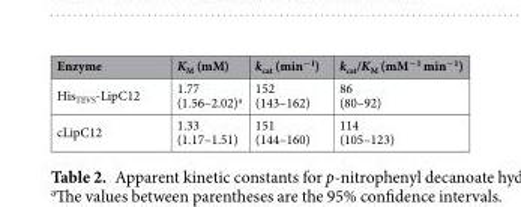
<table><thead><tr><td>Enzyme</td><td>K<sub>M</sub> (mM)</td><td>k<sub>cat</sub> (min<sup>−1</sup>)</td><td>k<sub>cat</sub>/K<sub>M</sub> (mM<sup>−1</sup> min<sup>−1</sup>)</td></tr></thead><tbody><tr><td>His<sub>TEVS</sub>-LipC12</td><td>1.77 (1.56–2.02)<sup>a</sup></td><td>152 (143–162)</td><td>86 (80–92)</td></tr><tr><td>cLipC12</td><td>1.33 (1.17–1.51)</td><td>151 (144–160)</td><td>114 (105–123)</td></tr></tbody></table>